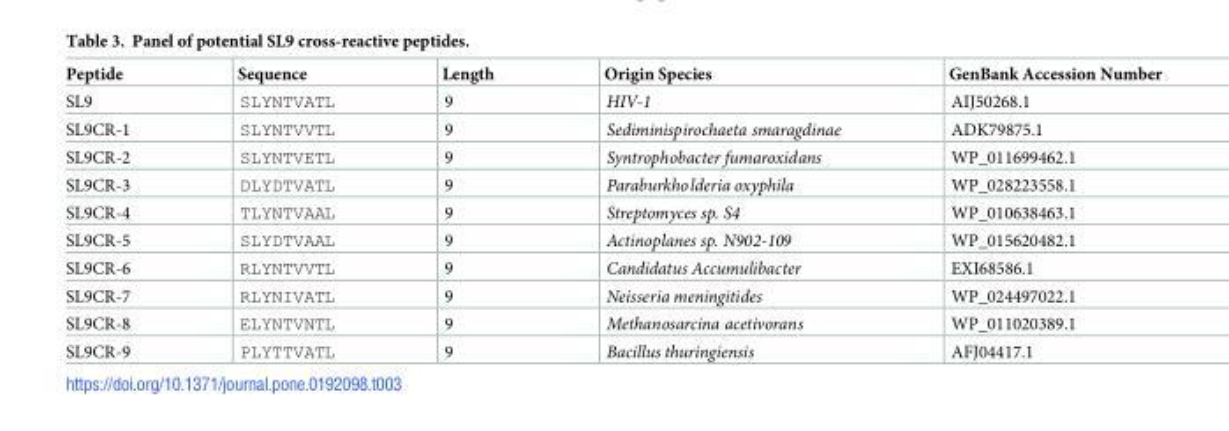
<table><thead><tr><td>Peptide</td><td>Sequence</td><td>Length</td><td>Origin Species</td><td>GenBank Accession Number</td></tr></thead><tbody><tr><td>SL9</td><td>SLYNTVATL</td><td>9</td><td>HIV-1</td><td>AIJ50268.1</td></tr><tr><td>SL9CR-1</td><td>SLYNTVVTL</td><td>9</td><td>Sediminispirochaeta smaragdinae</td><td>ADK79875.1</td></tr><tr><td>SL9CR-2</td><td>SLYNTVETL</td><td>9</td><td>Syntrophobacter fumaroxidans</td><td>WP_011699462.1</td></tr><tr><td>SL9CR-3</td><td>DLYDTVATL</td><td>9</td><td>Paraburkholderia oxyphila</td><td>WP_028223558.1</td></tr><tr><td>SL9CR-4</td><td>TLYNTVAAL</td><td>9</td><td>Streptomyces sp. S4</td><td>WP_010638463.1</td></tr><tr><td>SL9CR-5</td><td>SLYDTVAAL</td><td>9</td><td>Actinoplanes sp. N902-109</td><td>WP_015620482.1</td></tr><tr><td>SL9CR-6</td><td>RLYNTVVTL</td><td>9</td><td>Candidatus Accumulibacter</td><td>EXI68586.1</td></tr><tr><td>SL9CR-7</td><td>RLYNIVATL</td><td>9</td><td>Neisseria meningitides</td><td>WP_024497022.1</td></tr><tr><td>SL9CR-8</td><td>ELYNTVNTL</td><td>9</td><td>Methanosarcina acetivorans</td><td>WP_011020389.1</td></tr><tr><td>SL9CR-9</td><td>PLYTTVATL</td><td>9</td><td>Bacillus thuringiensis</td><td>AFJ04417.1</td></tr></tbody></table>